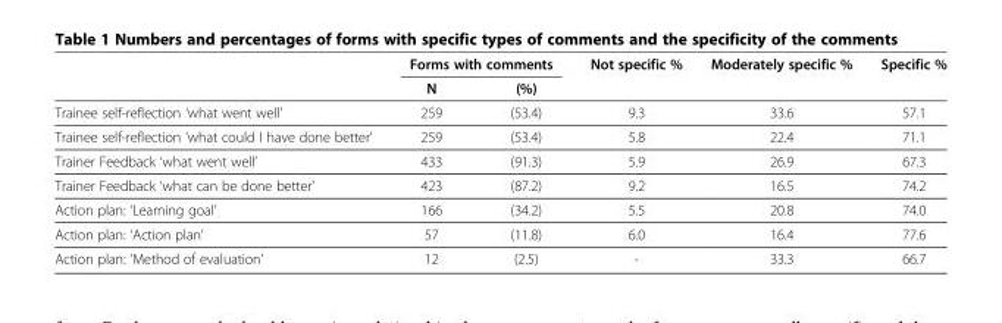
<table><thead><tr><td rowspan="2"></td><td colspan="2">Forms with comments</td><td rowspan="2">Not specific %</td><td rowspan="2">Moderately specific %</td><td rowspan="2">Specific %</td></tr><tr><td>N</td><td>(%)</td></tr></thead><tbody><tr><td>Trainee self-reflection ‘what went well’</td><td>259</td><td>(53.4)</td><td>9.3</td><td>33.6</td><td>57.1</td></tr><tr><td>Trainee self-reflection ‘what could I have done better’</td><td>259</td><td>(53.4)</td><td>5.8</td><td>22.4</td><td>71.1</td></tr><tr><td>Trainer Feedback ‘what went well’</td><td>433</td><td>(91.3)</td><td>5.9</td><td>26.9</td><td>67.3</td></tr><tr><td>Trainer Feedback ‘what can be done better’</td><td>423</td><td>(87.2)</td><td>9.2</td><td>16.5</td><td>74.2</td></tr><tr><td>Action plan: ‘Learning goal’</td><td>166</td><td>(34.2)</td><td>5.5</td><td>20.8</td><td>74.0</td></tr><tr><td>Action plan: ‘Action plan’</td><td>57</td><td>(11.8)</td><td>6.0</td><td>16.4</td><td>77.6</td></tr><tr><td>Action plan: ‘Method of evaluation’</td><td>12</td><td>(2.5)</td><td>-</td><td>33.3</td><td>66.7</td></tr></tbody></table>